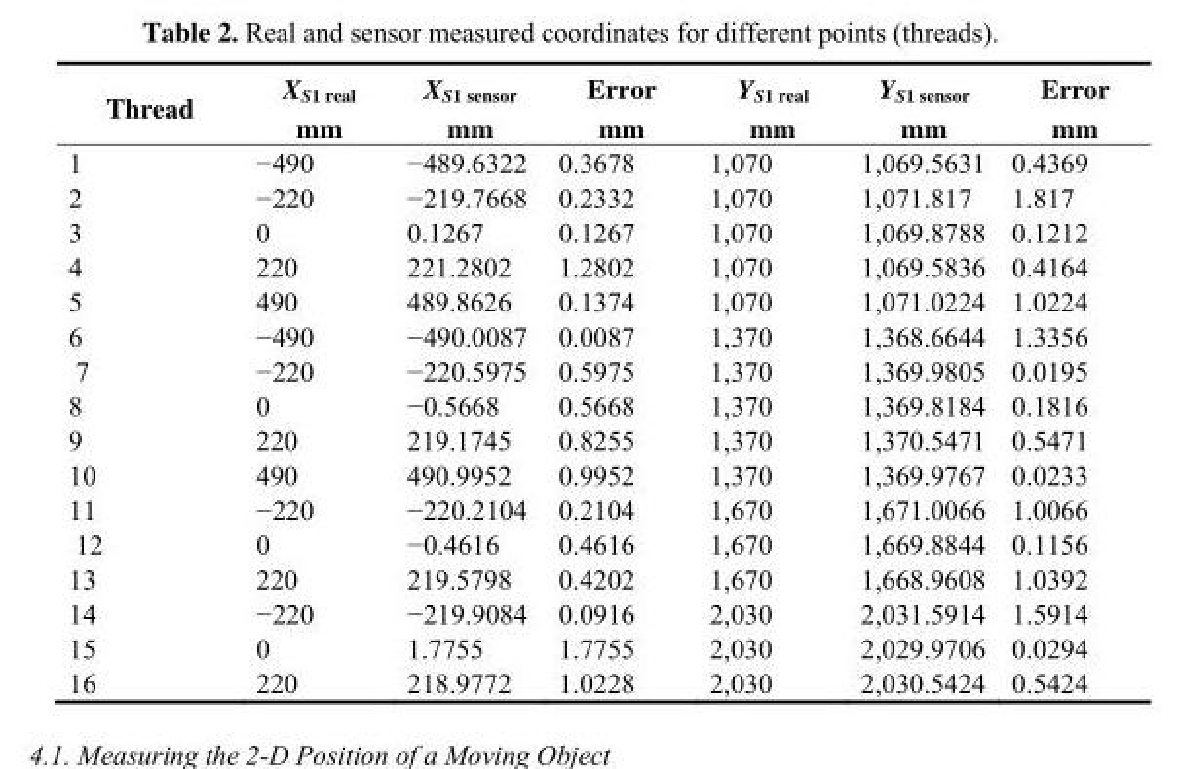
<table><thead><tr><td>Thread</td><td>X<sub>S1 real</sub> mm</td><td>X<sub>S1 sensor</sub> mm</td><td>Error mm</td><td>Y<sub>S1 real</sub> mm</td><td>Y<sub>S1 sensor</sub> mm</td><td>Error mm</td></tr></thead><tbody><tr><td>1</td><td>−490</td><td>−489.6322</td><td>0.3678</td><td>1,070</td><td>1,069.5631</td><td>0.4369</td></tr><tr><td>2</td><td>−220</td><td>−219.7668</td><td>0.2332</td><td>1,070</td><td>1,071.817</td><td>1.817</td></tr><tr><td>3</td><td>0</td><td>0.1267</td><td>0.1267</td><td>1,070</td><td>1,069.8788</td><td>0.1212</td></tr><tr><td>4</td><td>220</td><td>221.2802</td><td>1.2802</td><td>1,070</td><td>1,069.5836</td><td>0.4164</td></tr><tr><td>5</td><td>490</td><td>489.8626</td><td>0.1374</td><td>1,070</td><td>1,071.0224</td><td>1.0224</td></tr><tr><td>6</td><td>−490</td><td>−490.0087</td><td>0.0087</td><td>1,370</td><td>1,368.6644</td><td>1.3356</td></tr><tr><td>7</td><td>−220</td><td>−220.5975</td><td>0.5975</td><td>1,370</td><td>1,369.9805</td><td>0.0195</td></tr><tr><td>8</td><td>0</td><td>−0.5668</td><td>0.5668</td><td>1,370</td><td>1,369.8184</td><td>0.1816</td></tr><tr><td>9</td><td>220</td><td>219.1745</td><td>0.8255</td><td>1,370</td><td>1,370.5471</td><td>0.5471</td></tr><tr><td>10</td><td>490</td><td>490.9952</td><td>0.9952</td><td>1,370</td><td>1,369.9767</td><td>0.0233</td></tr><tr><td>11</td><td>−220</td><td>−220.2104</td><td>0.2104</td><td>1,670</td><td>1,671.0066</td><td>1.0066</td></tr><tr><td>12</td><td>0</td><td>−0.4616</td><td>0.4616</td><td>1,670</td><td>1,669.8844</td><td>0.1156</td></tr><tr><td>13</td><td>220</td><td>219.5798</td><td>0.4202</td><td>1,670</td><td>1,668.9608</td><td>1.0392</td></tr><tr><td>14</td><td>−220</td><td>−219.9084</td><td>0.0916</td><td>2,030</td><td>2,031.5914</td><td>1.5914</td></tr><tr><td>15</td><td>0</td><td>1.7755</td><td>1.7755</td><td>2,030</td><td>2,029.9706</td><td>0.0294</td></tr><tr><td>16</td><td>220</td><td>218.9772</td><td>1.0228</td><td>2,030</td><td>2,030.5424</td><td>0.5424</td></tr></tbody></table>